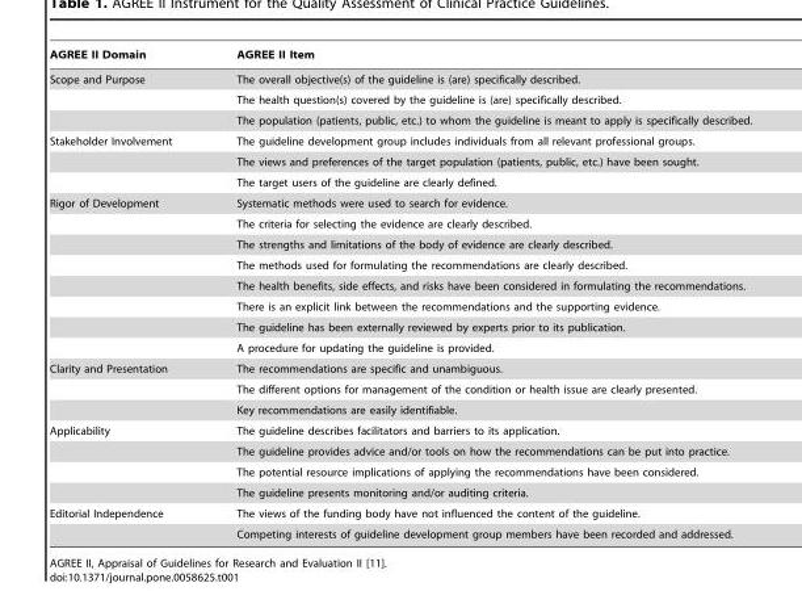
<table><thead><tr><td>AGREE II Domain</td><td>AGREE II Item</td></tr></thead><tbody><tr><td rowspan="3">Scope and Purpose</td><td>The overall objective(s) of the guideline is (are) specifically described.</td></tr><tr><td>The health question(s) covered by the guideline is (are) specifically described.</td></tr><tr><td>The population (patients, public, etc.) to whom the guideline is meant to apply is specifically described.</td></tr><tr><td rowspan="3">Stakeholder Involvement</td><td>The guideline development group includes individuals from all relevant professional groups.</td></tr><tr><td>The views and preferences of the target population (patients, public, etc.) have been sought.</td></tr><tr><td>The target users of the guideline are clearly defined.</td></tr><tr><td rowspan="8">Rigor of Development</td><td>Systematic methods were used to search for evidence.</td></tr><tr><td>The criteria for selecting the evidence are clearly described.</td></tr><tr><td>The strengths and limitations of the body of evidence are clearly described.</td></tr><tr><td>The methods used for formulating the recommendations are clearly described.</td></tr><tr><td>The health benefits, side effects, and risks have been considered in formulating the recommendations.</td></tr><tr><td>There is an explicit link between the recommendations and the supporting evidence.</td></tr><tr><td>The guideline has been externally reviewed by experts prior to its publication.</td></tr><tr><td>A procedure for updating the guideline is provided.</td></tr><tr><td rowspan="3">Clarity and Presentation</td><td>The recommendations are specific and unambiguous.</td></tr><tr><td>The different options for management of the condition or health issue are clearly presented.</td></tr><tr><td>Key recommendations are easily identifiable.</td></tr><tr><td rowspan="4">Applicability</td><td>The guideline describes facilitators and barriers to its application.</td></tr><tr><td>The guideline provides advice and/or tools on how the recommendations can be put into practice.</td></tr><tr><td>The potential resource implications of applying the recommendations have been considered.</td></tr><tr><td>The guideline presents monitoring and/or auditing criteria.</td></tr><tr><td rowspan="2">Editorial Independence</td><td>The views of the funding body have not influenced the content of the guideline.</td></tr><tr><td>Competing interests of guideline development group members have been recorded and addressed.</td></tr></tbody></table>